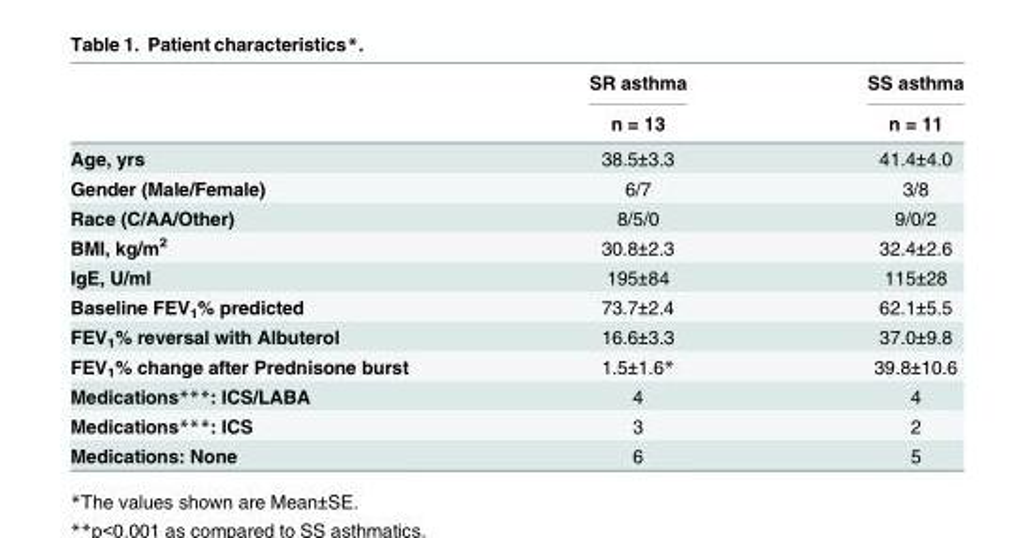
<table><thead><tr><td rowspan="2"></td><td rowspan="2">SR asthma n = 13</td><td rowspan="2">SS asthma n = 11</td></tr><tr></tr></thead><tbody><tr><td>Age, yrs</td><td>38.5±3.3</td><td>41.4±4.0</td></tr><tr><td>Gender (Male/Female)</td><td>6/7</td><td>3/8</td></tr><tr><td>Race (C/AA/Other)</td><td>8/5/0</td><td>9/0/2</td></tr><tr><td>BMI, kg/m<sup>2</sup></td><td>30.8±2.3</td><td>32.4±2.6</td></tr><tr><td>IgE, U/ml</td><td>195±84</td><td>115±28</td></tr><tr><td>Baseline FEV<sub>1</sub>% predicted</td><td>73.7±2.4</td><td>62.1±5.5</td></tr><tr><td>FEV<sub>1</sub>% reversal with Albuterol</td><td>16.6±3.3</td><td>37.0±9.8</td></tr><tr><td>FEV<sub>1</sub>% change after Prednisone burst</td><td>1.5±1.6*</td><td>39.8±10.6</td></tr><tr><td>Medications***: ICS/LABA</td><td>4</td><td>4</td></tr><tr><td>Medications***: ICS</td><td>3</td><td>2</td></tr><tr><td>Medications: None</td><td>6</td><td>5</td></tr></tbody></table>